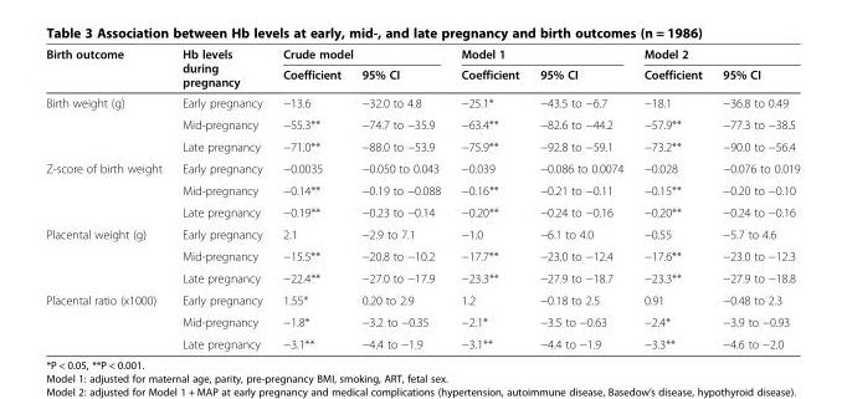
<table><thead><tr><td rowspan="2">Birth outcome</td><td rowspan="2">Hb levels during pregnancy</td><td colspan="2">Crude model</td><td colspan="2">Model 1</td><td colspan="2">Model 2</td></tr><tr><td>Coefficient</td><td>95% CI</td><td>Coefficient</td><td>95% CI</td><td>Coefficient</td><td>95% CI</td></tr></thead><tbody><tr><td rowspan="3">Birth weight (g)</td><td>Early pregnancy</td><td>−13.6</td><td>−32.0 to 4.8</td><td>−25.1*</td><td>−43.5 to −6.7</td><td>−18.1</td><td>−36.8 to 0.49</td></tr><tr><td>Mid-pregnancy</td><td>−55.3**</td><td>−74.7 to −35.9</td><td>−63.4**</td><td>−82.6 to −44.2</td><td>−57.9**</td><td>−77.3 to −38.5</td></tr><tr><td>Late pregnancy</td><td>−71.0**</td><td>−88.0 to −53.9</td><td>−75.9**</td><td>−92.8 to −59.1</td><td>−73.2**</td><td>−90.0 to −56.4</td></tr><tr><td rowspan="3">Z-score of birth weight</td><td>Early pregnancy</td><td>−0.0035</td><td>−0.050 to 0.043</td><td>−0.039</td><td>−0.086 to 0.0074</td><td>−0.028</td><td>−0.076 to 0.019</td></tr><tr><td>Mid-pregnancy</td><td>−0.14**</td><td>−0.19 to −0.088</td><td>−0.16**</td><td>−0.21 to −0.11</td><td>−0.15**</td><td>−0.20 to −0.10</td></tr><tr><td>Late pregnancy</td><td>−0.19**</td><td>−0.23 to −0.14</td><td>−0.20**</td><td>−0.24 to −0.16</td><td>−0.20**</td><td>−0.24 to −0.16</td></tr><tr><td rowspan="3">Placental weight (g)</td><td>Early pregnancy</td><td>2.1</td><td>−2.9 to 7.1</td><td>−1.0</td><td>−6.1 to 4.0</td><td>−0.55</td><td>−5.7 to 4.6</td></tr><tr><td>Mid-pregnancy</td><td>−15.5**</td><td>−20.8 to −10.2</td><td>−17.7**</td><td>−23.0 to −12.4</td><td>−17.6**</td><td>−23.0 to −12.3</td></tr><tr><td>Late pregnancy</td><td>−22.4**</td><td>−27.0 to −17.9</td><td>−23.3**</td><td>−27.9 to −18.7</td><td>−23.3**</td><td>−27.9 to −18.8</td></tr><tr><td rowspan="3">Placental ratio (x1000)</td><td>Early pregnancy</td><td>1.55*</td><td>0.20 to 2.9</td><td>1.2</td><td>−0.18 to 2.5</td><td>0.91</td><td>−0.48 to 2.3</td></tr><tr><td>Mid-pregnancy</td><td>−1.8*</td><td>−3.2 to −0.35</td><td>−2.1*</td><td>−3.5 to −0.63</td><td>−2.4*</td><td>−3.9 to −0.93</td></tr><tr><td>Late pregnancy</td><td>−3.1**</td><td>−4.4 to −1.9</td><td>−3.1**</td><td>−4.4 to −1.9</td><td>−3.3**</td><td>−4.6 to −2.0</td></tr></tbody></table>